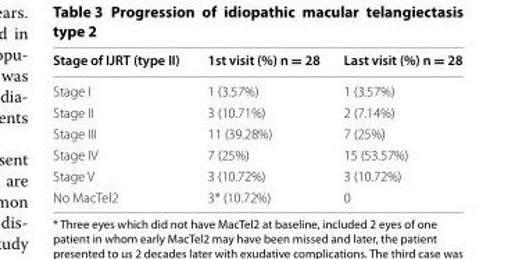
<table><thead><tr><td>Stage of IJRT (type II)</td><td>1st visit (%) n = 28</td><td>Last visit (%) n = 28</td></tr></thead><tbody><tr><td>Stage I</td><td>1 (3.57%)</td><td>1 (3.57%)</td></tr><tr><td>Stage II</td><td>3 (10.71%)</td><td>2 (7.14%)</td></tr><tr><td>Stage III</td><td>11 (39.28%)</td><td>7 (25%)</td></tr><tr><td>Stage IV</td><td>7 (25%)</td><td>15 (53.57%)</td></tr><tr><td>Stage V</td><td>3 (10.72%)</td><td>3 (10.72%)</td></tr><tr><td>No MacTel2</td><td>3* (10.72%)</td><td>0</td></tr></tbody></table>